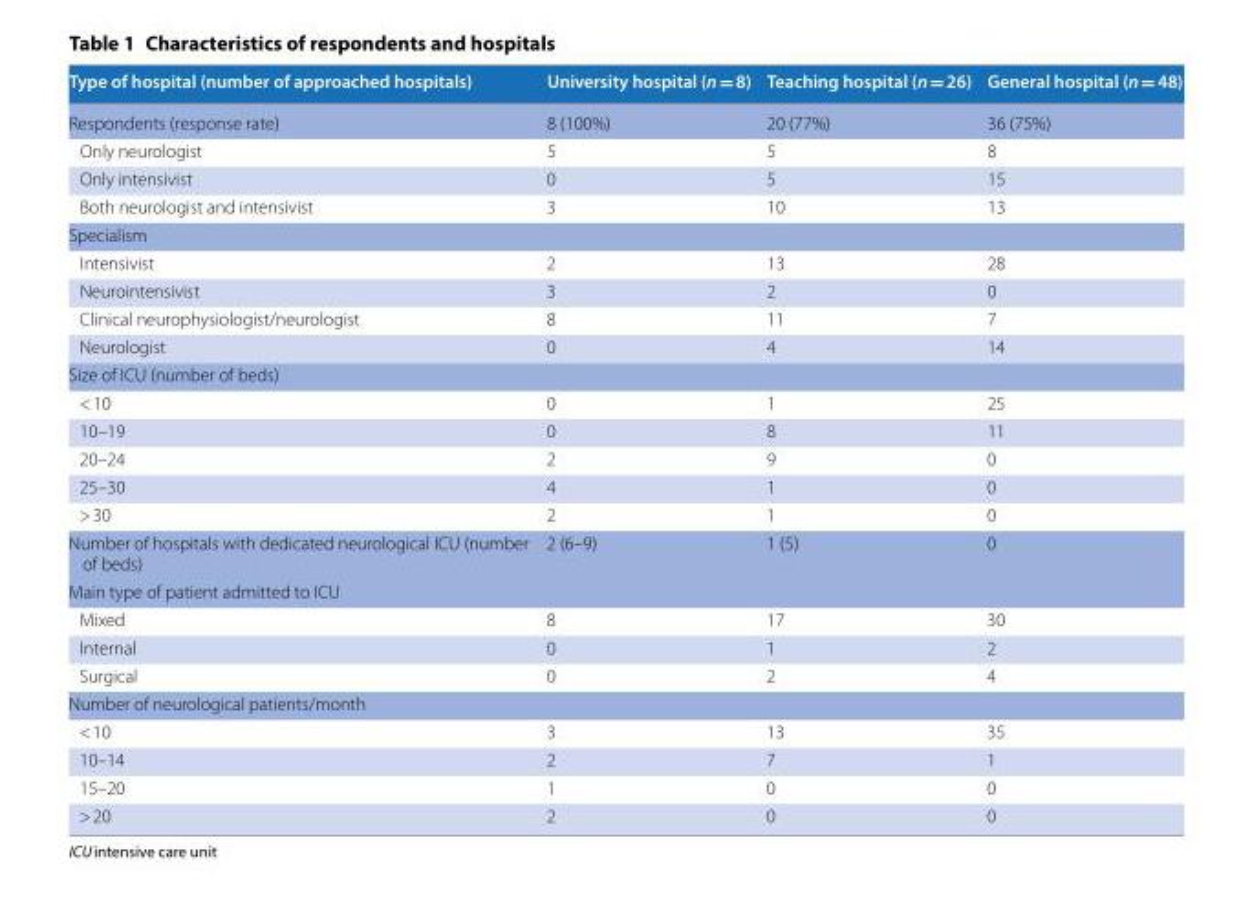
<table><thead><tr><td>Type of hospital (number of approached hospitals)</td><td>University hospital (n = 8)</td><td>Teaching hospital (n = 26)</td><td>General hospital (n = 48)</td></tr></thead><tbody><tr><td>Respondents (response rate)</td><td>8 (100%)</td><td>20 (77%)</td><td>36 (75%)</td></tr><tr><td>Only neurologist</td><td>5</td><td>5</td><td>8</td></tr><tr><td>Only intensivist</td><td>0</td><td>5</td><td>15</td></tr><tr><td>Both neurologist and intensivist</td><td>3</td><td>10</td><td>13</td></tr><tr><td colspan="4">Specialism</td></tr><tr><td>Intensivist</td><td>2</td><td>13</td><td>28</td></tr><tr><td>Neurointensivist</td><td>3</td><td>2</td><td>0</td></tr><tr><td>Clinical neurophysiologist/neurologist</td><td>8</td><td>11</td><td>7</td></tr><tr><td>Neurologist</td><td>0</td><td>4</td><td>14</td></tr><tr><td colspan="4">Size of ICU (number of beds)</td></tr><tr><td>&lt; 10</td><td>0</td><td>1</td><td>25</td></tr><tr><td>10–19</td><td>0</td><td>8</td><td>11</td></tr><tr><td>20–24</td><td>2</td><td>9</td><td>0</td></tr><tr><td>25–30</td><td>4</td><td>1</td><td>0</td></tr><tr><td>&gt; 30</td><td>2</td><td>1</td><td>0</td></tr><tr><td>Number of hospitals with dedicated neurological ICU (number of beds)</td><td>2 (6–9)</td><td>1 (5)</td><td>0</td></tr><tr><td colspan="4">Main type of patient admitted to ICU</td></tr><tr><td>Mixed</td><td>8</td><td>17</td><td>30</td></tr><tr><td>Internal</td><td>0</td><td>1</td><td>2</td></tr><tr><td>Surgical</td><td>0</td><td>2</td><td>4</td></tr><tr><td colspan="4">Number of neurological patients/month</td></tr><tr><td>&lt; 10</td><td>3</td><td>13</td><td>35</td></tr><tr><td>10–14</td><td>2</td><td>7</td><td>1</td></tr><tr><td>15–20</td><td>1</td><td>0</td><td>0</td></tr><tr><td>&gt; 20</td><td>2</td><td>0</td><td>0</td></tr></tbody></table>